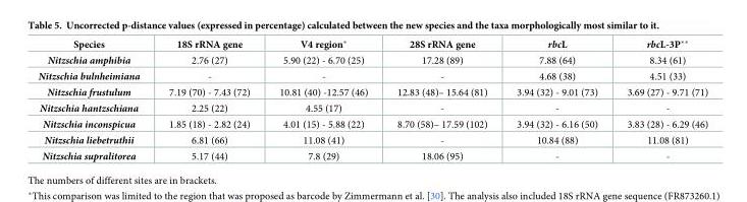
<table><thead><tr><td>Species</td><td>18S rRNA gene</td><td>V4 region*</td><td>28S rRNA gene</td><td>rbcL</td><td>rbcL-3P**</td></tr></thead><tbody><tr><td>Nitzschia amphibia</td><td>2.76 (27)</td><td>5.90 (22) - 6.70 (25)</td><td>17.28 (89)</td><td>7.88 (64)</td><td>8.34 (61)</td></tr><tr><td>Nitzschia bulnheimiana</td><td>-</td><td>-</td><td>-</td><td>4.68 (38)</td><td>4.51 (33)</td></tr><tr><td>Nitzschia frustulum</td><td>7.19 (70) - 7.43 (72)</td><td>10.81 (40) -12.57 (46)</td><td>12.83 (48)– 15.64 (81)</td><td>3.94 (32) - 9.01 (73)</td><td>3.69 (27) - 9.71 (71)</td></tr><tr><td>Nitzschia hantzschiana</td><td>2.25 (22)</td><td>4.55 (17)</td><td>-</td><td>-</td><td>-</td></tr><tr><td>Nitzschia inconspicua</td><td>1.85 (18) - 2.82 (24)</td><td>4.01 (15) - 5.88 (22)</td><td>8.70 (58)– 17.59 (102)</td><td>3.94 (32) - 6.16 (50)</td><td>3.83 (28) - 6.29 (46)</td></tr><tr><td>Nitzschia liebetruthii</td><td>6.81 (66)</td><td>11.08 (41)</td><td>-</td><td>10.84 (88)</td><td>11.08 (81)</td></tr><tr><td>Nitzschia supralitorea</td><td>5.17 (44)</td><td>7.8 (29)</td><td>18.06 (95)</td><td>-</td><td>-</td></tr></tbody></table>